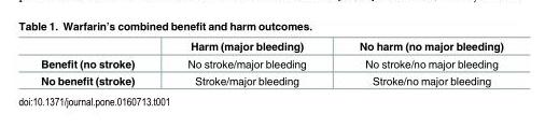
<table><thead><tr><td></td><td>Harm (major bleeding)</td><td>No harm (no major bleeding)</td></tr></thead><tbody><tr><td>Benefit (no stroke)</td><td>No stroke/major bleeding</td><td>No stroke/no major bleeding</td></tr><tr><td>No benefit (stroke)</td><td>Stroke/major bleeding</td><td>Stroke/no major bleeding</td></tr></tbody></table>